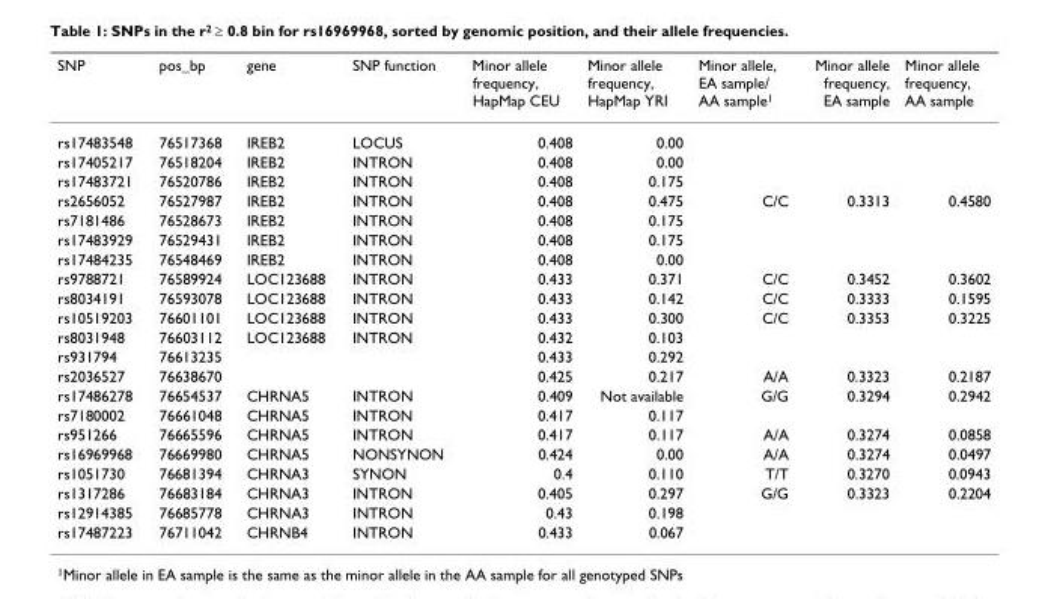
<table><thead><tr><td>SNP</td><td>pos_bp</td><td>gene</td><td>SNP function</td><td>Minor allele frequency, HapMap CEU</td><td>Minor allele frequency, HapMap YRI</td><td>Minor allele, EA sample/ AA sample<sup>1</sup></td><td>Minor allele frequency, EA sample</td><td>Minor allele frequency, AA sample</td></tr></thead><tbody><tr><td>rs17483548</td><td>76517368</td><td>IREB2</td><td>LOCUS</td><td>0.408</td><td>0.00</td><td></td><td></td><td></td></tr><tr><td>rs17405217</td><td>76518204</td><td>IREB2</td><td>INTRON</td><td>0.408</td><td>0.00</td><td></td><td></td><td></td></tr><tr><td>rs17483721</td><td>76520786</td><td>IREB2</td><td>INTRON</td><td>0.408</td><td>0.175</td><td></td><td></td><td></td></tr><tr><td>rs2656052</td><td>76527987</td><td>IREB2</td><td>INTRON</td><td>0.408</td><td>0.475</td><td>C/C</td><td>0.3313</td><td>0.4580</td></tr><tr><td>rs7181486</td><td>76528673</td><td>IREB2</td><td>INTRON</td><td>0.408</td><td>0.175</td><td></td><td></td><td></td></tr><tr><td>rs17483929</td><td>76529431</td><td>IREB2</td><td>INTRON</td><td>0.408</td><td>0.175</td><td></td><td></td><td></td></tr><tr><td>rs17484235</td><td>76548469</td><td>IREB2</td><td>INTRON</td><td>0.408</td><td>0.00</td><td></td><td></td><td></td></tr><tr><td>rs9788721</td><td>76589924</td><td>LOC123688</td><td>INTRON</td><td>0.433</td><td>0.371</td><td>C/C</td><td>0.3452</td><td>0.3602</td></tr><tr><td>rs8034191</td><td>76593078</td><td>LOC123688</td><td>INTRON</td><td>0.433</td><td>0.142</td><td>C/C</td><td>0.3333</td><td>0.1595</td></tr><tr><td>rs10519203</td><td>76601101</td><td>LOC123688</td><td>INTRON</td><td>0.433</td><td>0.300</td><td>C/C</td><td>0.3353</td><td>0.3225</td></tr><tr><td>rs8031948</td><td>76603112</td><td>LOC123688</td><td>INTRON</td><td>0.432</td><td>0.103</td><td></td><td></td><td></td></tr><tr><td>rs931794</td><td>76613235</td><td></td><td></td><td>0.433</td><td>0.292</td><td></td><td></td><td></td></tr><tr><td>rs2036527</td><td>76638670</td><td></td><td></td><td>0.425</td><td>0.217</td><td>A/A</td><td>0.3323</td><td>0.2187</td></tr><tr><td>rs17486278</td><td>76654537</td><td>CHRNA5</td><td>INTRON</td><td>0.409</td><td>Not available</td><td>G/G</td><td>0.3294</td><td>0.2942</td></tr><tr><td>rs7180002</td><td>76661048</td><td>CHRNA5</td><td>INTRON</td><td>0.417</td><td>0.117</td><td></td><td></td><td></td></tr><tr><td>rs951266</td><td>76665596</td><td>CHRNA5</td><td>INTRON</td><td>0.417</td><td>0.117</td><td>A/A</td><td>0.3274</td><td>0.0858</td></tr><tr><td>rs16969968</td><td>76669980</td><td>CHRNA5</td><td>NONSYNON</td><td>0.424</td><td>0.00</td><td>A/A</td><td>0.3274</td><td>0.0497</td></tr><tr><td>rs1051730</td><td>76681394</td><td>CHRNA3</td><td>SYNON</td><td>0.4</td><td>0.110</td><td>T/T</td><td>0.3270</td><td>0.0943</td></tr><tr><td>rs1317286</td><td>76683184</td><td>CHRNA3</td><td>INTRON</td><td>0.405</td><td>0.297</td><td>G/G</td><td>0.3323</td><td>0.2204</td></tr><tr><td>rs12914385</td><td>76685778</td><td>CHRNA3</td><td>INTRON</td><td>0.43</td><td>0.198</td><td></td><td></td><td></td></tr><tr><td>rs17487223</td><td>76711042</td><td>CHRNB4</td><td>INTRON</td><td>0.433</td><td>0.067</td><td></td><td></td><td></td></tr></tbody></table>